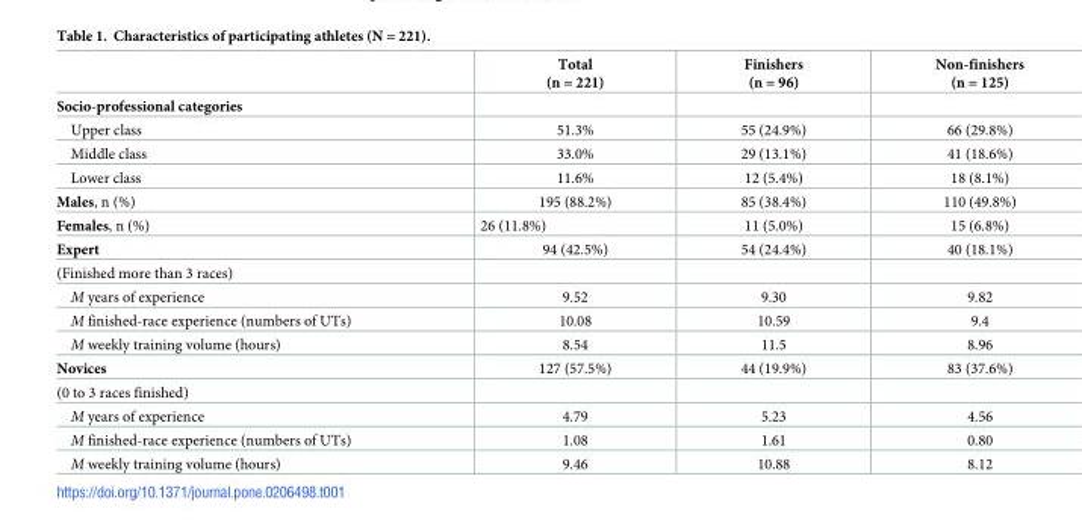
<table><thead><tr><td></td><td>Total (n = 221)</td><td>Finishers (n = 96)</td><td>Non-finishers (n = 125)</td></tr></thead><tbody><tr><td colspan="4">Socio-professional categories</td></tr><tr><td>Upper class</td><td>51.3%</td><td>55 (24.9%)</td><td>66 (29.8%)</td></tr><tr><td>Middle class</td><td>33.0%</td><td>29 (13.1%)</td><td>41 (18.6%)</td></tr><tr><td>Lower class</td><td>11.6%</td><td>12 (5.4%)</td><td>18 (8.1%)</td></tr><tr><td>Males, n (%)</td><td>195 (88.2%)</td><td>85 (38.4%)</td><td>110 (49.8%)</td></tr><tr><td>Females, n (%)</td><td>26 (11.8%)</td><td>11 (5.0%)</td><td>15 (6.8%)</td></tr><tr><td>Expert</td><td>94 (42.5%)</td><td>54 (24.4%)</td><td>40 (18.1%)</td></tr><tr><td colspan="4">(Finished more than 3 races)</td></tr><tr><td>M years of experience</td><td>9.52</td><td>9.30</td><td>9.82</td></tr><tr><td>M finished-race experience (numbers of UTs)</td><td>10.08</td><td>10.59</td><td>9.4</td></tr><tr><td>M weekly training volume (hours)</td><td>8.54</td><td>11.5</td><td>8.96</td></tr><tr><td>Novices</td><td>127 (57.5%)</td><td>44 (19.9%)</td><td>83 (37.6%)</td></tr><tr><td colspan="4">(0 to 3 races finished)</td></tr><tr><td>M years of experience</td><td>4.79</td><td>5.23</td><td>4.56</td></tr><tr><td>M finished-race experience (numbers of UTs)</td><td>1.08</td><td>1.61</td><td>0.80</td></tr><tr><td>M weekly training volume (hours)</td><td>9.46</td><td>10.88</td><td>8.12</td></tr></tbody></table>